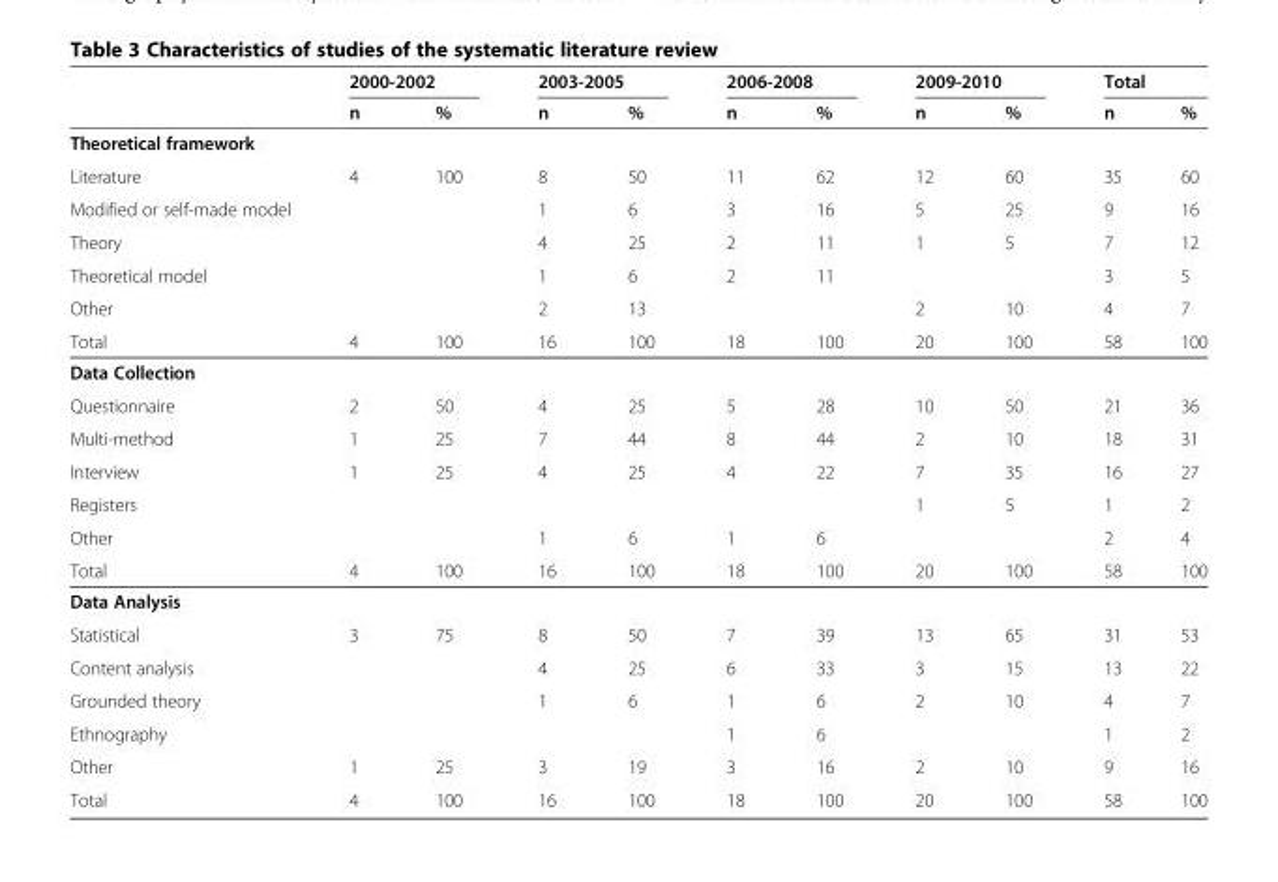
<table><thead><tr><td rowspan="2"></td><td colspan="2">2000-2002</td><td colspan="2">2003-2005</td><td colspan="2">2006-2008</td><td colspan="2">2009-2010</td><td colspan="2">Total</td></tr><tr><td>n</td><td>%</td><td>n</td><td>%</td><td>n</td><td>%</td><td>n</td><td>%</td><td>n</td><td>%</td></tr></thead><tbody><tr><td colspan="11">Theoretical framework</td></tr><tr><td>Literature</td><td>4</td><td>100</td><td>8</td><td>50</td><td>11</td><td>62</td><td>12</td><td>60</td><td>35</td><td>60</td></tr><tr><td>Modified or self-made model</td><td></td><td></td><td>1</td><td>6</td><td>3</td><td>16</td><td>5</td><td>25</td><td>9</td><td>16</td></tr><tr><td>Theory</td><td></td><td></td><td>4</td><td>25</td><td>2</td><td>11</td><td>1</td><td>5</td><td>7</td><td>12</td></tr><tr><td>Theoretical model</td><td></td><td></td><td>1</td><td>6</td><td>2</td><td>11</td><td></td><td></td><td>3</td><td>5</td></tr><tr><td>Other</td><td></td><td></td><td>2</td><td>13</td><td></td><td></td><td>2</td><td>10</td><td>4</td><td>7</td></tr><tr><td>Total</td><td>4</td><td>100</td><td>16</td><td>100</td><td>18</td><td>100</td><td>20</td><td>100</td><td>58</td><td>100</td></tr><tr><td colspan="11">Data Collection</td></tr><tr><td>Questionnaire</td><td>2</td><td>50</td><td>4</td><td>25</td><td>5</td><td>28</td><td>10</td><td>50</td><td>21</td><td>36</td></tr><tr><td>Multi-method</td><td>1</td><td>25</td><td>7</td><td>44</td><td>8</td><td>44</td><td>2</td><td>10</td><td>18</td><td>31</td></tr><tr><td>Interview</td><td>1</td><td>25</td><td>4</td><td>25</td><td>4</td><td>22</td><td>7</td><td>35</td><td>16</td><td>27</td></tr><tr><td>Registers</td><td></td><td></td><td></td><td></td><td></td><td></td><td>1</td><td>5</td><td>1</td><td>2</td></tr><tr><td>Other</td><td></td><td></td><td>1</td><td>6</td><td>1</td><td>6</td><td></td><td></td><td>2</td><td>4</td></tr><tr><td>Total</td><td>4</td><td>100</td><td>16</td><td>100</td><td>18</td><td>100</td><td>20</td><td>100</td><td>58</td><td>100</td></tr><tr><td colspan="11">Data Analysis</td></tr><tr><td>Statistical</td><td>3</td><td>75</td><td>8</td><td>50</td><td>7</td><td>39</td><td>13</td><td>65</td><td>31</td><td>53</td></tr><tr><td>Content analysis</td><td></td><td></td><td>4</td><td>25</td><td>6</td><td>33</td><td>3</td><td>15</td><td>13</td><td>22</td></tr><tr><td>Grounded theory</td><td></td><td></td><td>1</td><td>6</td><td>1</td><td>6</td><td>2</td><td>10</td><td>4</td><td>7</td></tr><tr><td>Ethnography</td><td></td><td></td><td></td><td></td><td>1</td><td>6</td><td></td><td></td><td>1</td><td>2</td></tr><tr><td>Other</td><td>1</td><td>25</td><td>3</td><td>19</td><td>3</td><td>16</td><td>2</td><td>10</td><td>9</td><td>16</td></tr><tr><td>Total</td><td>4</td><td>100</td><td>16</td><td>100</td><td>18</td><td>100</td><td>20</td><td>100</td><td>58</td><td>100</td></tr></tbody></table>